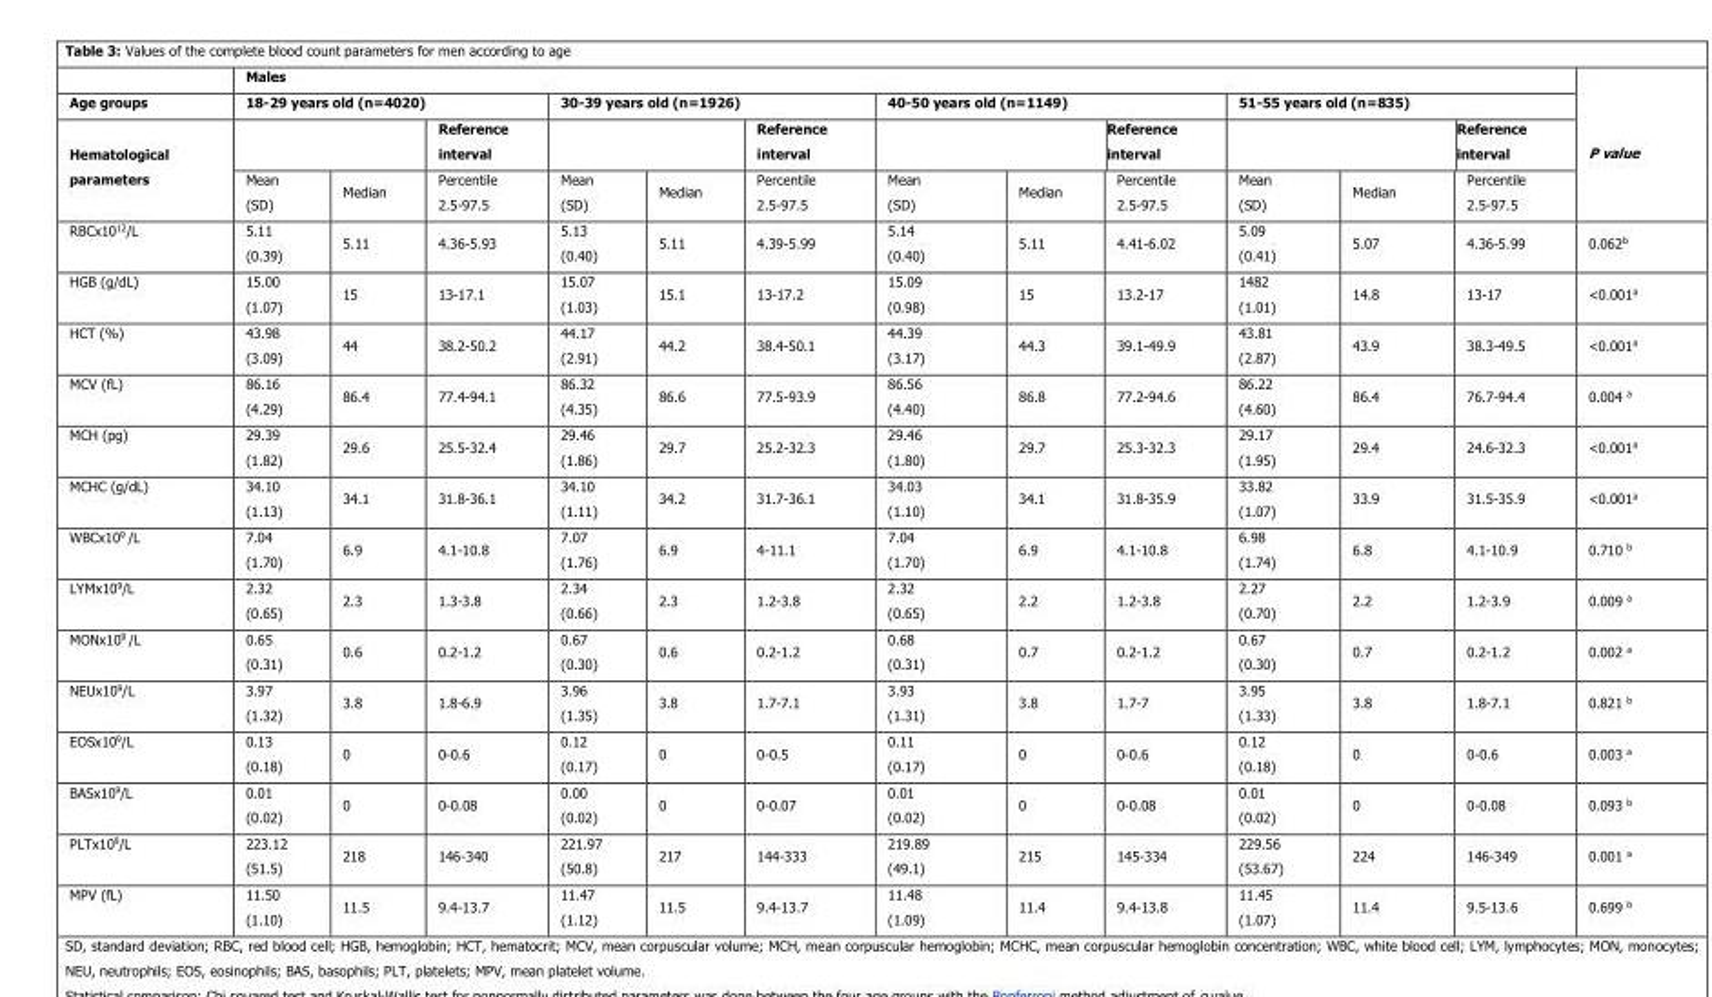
<table><thead><tr><td rowspan="4">Age groups Hematological parameters</td><td colspan="12">Males</td><td rowspan="4">P value</td></tr><tr><td colspan="3">18-29 years old (n=4020)</td><td colspan="3">30-39 years old (n=1926)</td><td colspan="3">40-50 years old (n=1149)</td><td colspan="3">51-55 years old (n=835)</td></tr><tr><td rowspan="2">Mean (SD)</td><td rowspan="2">Median</td><td rowspan="2">Reference interval Percentile 2.5-97.5</td><td rowspan="2">Mean (SD)</td><td rowspan="2">Median</td><td rowspan="2">Reference interval Percentile 2.5-97.5</td><td rowspan="2">Mean (SD)</td><td rowspan="2">Median</td><td rowspan="2">Reference interval Percentile 2.5-97.5</td><td rowspan="2">Mean (SD)</td><td rowspan="2">Median</td><td rowspan="2">Reference interval Percentile 2.5-97.5</td></tr><tr></tr></thead><tbody><tr><td>RBCx10<sup>12</sup>/L</td><td>5.11 (0.39)</td><td>5.11</td><td>4.36-5.93</td><td>5.13 (0.40)</td><td>5.11</td><td>4.39-5.99</td><td>5.14 (0.40)</td><td>5.11</td><td>4.41-6.02</td><td>5.09 (0.41)</td><td>5.07</td><td>4.36-5.99</td><td>0.062<sup>b</sup></td></tr><tr><td>HGB (g/dL)</td><td>15.00 (1.07)</td><td>15</td><td>13-17.1</td><td>15.07 (1.03)</td><td>15.1</td><td>13-17.2</td><td>15.09 (0.98)</td><td>15</td><td>13.2-17</td><td>1482 (1.01)</td><td>14.8</td><td>13-17</td><td>&lt;0.001<sup>a</sup></td></tr><tr><td>HCT (%)</td><td>43.98 (3.09)</td><td>44</td><td>38.2-50.2</td><td>44.17 (2.91)</td><td>44.2</td><td>38.4-50.1</td><td>44.39 (3.17)</td><td>44.3</td><td>39.1-49.9</td><td>43.81 (2.87)</td><td>43.9</td><td>38.3-49.5</td><td>&lt;0.001<sup>a</sup></td></tr><tr><td>MCV (fL)</td><td>86.16 (4.29)</td><td>86.4</td><td>77.4-94.1</td><td>86.32 (4.35)</td><td>86.6</td><td>77.5-93.9</td><td>86.56 (4.40)</td><td>86.8</td><td>77.2-94.6</td><td>86.22 (4.60)</td><td>86.4</td><td>76.7-94.4</td><td>0.004 <sup>a</sup></td></tr><tr><td>MCH (pg)</td><td>29.39 (1.82)</td><td>29.6</td><td>25.5-32.4</td><td>29.46 (1.86)</td><td>29.7</td><td>25.2-32.3</td><td>29.46 (1.80)</td><td>29.7</td><td>25.3-32.3</td><td>29.17 (1.95)</td><td>29.4</td><td>24.6-32.3</td><td>&lt;0.001<sup>a</sup></td></tr><tr><td>MCHC (g/dL)</td><td>34.10 (1.13)</td><td>34.1</td><td>31.8-36.1</td><td>34.10 (1.11)</td><td>34.2</td><td>31.7-36.1</td><td>34.03 (1.10)</td><td>34.1</td><td>31.8-35.9</td><td>33.82 (1.07)</td><td>33.9</td><td>31.5-35.9</td><td>&lt;0.001<sup>a</sup></td></tr><tr><td>WBCx10<sup>9</sup> /L</td><td>7.04 (1.70)</td><td>6.9</td><td>4.1-10.8</td><td>7.07 (1.76)</td><td>6.9</td><td>4-11.1</td><td>7.04 (1.70)</td><td>6.9</td><td>4.1-10.8</td><td>6.98 (1.74)</td><td>6.8</td><td>4.1-10.9</td><td>0.710 <sup>b</sup></td></tr><tr><td>LYMx10<sup>9</sup>/L</td><td>2.32 (0.65)</td><td>2.3</td><td>1.3-3.8</td><td>2.34 (0.66)</td><td>2.3</td><td>1.2-3.8</td><td>2.32 (0.65)</td><td>2.2</td><td>1.2-3.8</td><td>2.27 (0.70)</td><td>2.2</td><td>1.2-3.9</td><td>0.009 <sup>a</sup></td></tr><tr><td>MONx10<sup>9</sup> /L</td><td>0.65 (0.31)</td><td>0.6</td><td>0.2-1.2</td><td>0.67 (0.30)</td><td>0.6</td><td>0.2-1.2</td><td>0.68 (0.31)</td><td>0.7</td><td>0.2-1.2</td><td>0.67 (0.30)</td><td>0.7</td><td>0.2-1.2</td><td>0.002 <sup>a</sup></td></tr><tr><td>NEUx10<sup>9</sup>/L</td><td>3.97 (1.32)</td><td>3.8</td><td>1.8-6.9</td><td>3.96 (1.35)</td><td>3.8</td><td>1.7-7.1</td><td>3.93 (1.31)</td><td>3.8</td><td>1.7-7</td><td>3.95 (1.33)</td><td>3.8</td><td>1.8-7.1</td><td>0.821 <sup>b</sup></td></tr><tr><td>EOSx10<sup>9</sup>/L</td><td>0.13 (0.18)</td><td>0</td><td>0-0.6</td><td>0.12 (0.17)</td><td>0</td><td>0-0.5</td><td>0.11 (0.17)</td><td>0</td><td>0-0.6</td><td>0.12 (0.18)</td><td>0</td><td>0-0.6</td><td>0.003 <sup>a</sup></td></tr><tr><td>BASx10<sup>9</sup>/L</td><td>0.01 (0.02)</td><td>0</td><td>0-0.08</td><td>0.00 (0.02)</td><td>0</td><td>0-0.07</td><td>0.01 (0.02)</td><td>0</td><td>0-0.08</td><td>0.01 (0.02)</td><td>0</td><td>0-0.08</td><td>0.093 <sup>b</sup></td></tr><tr><td>PLTx10<sup>9</sup>/L</td><td>223.12 (51.5)</td><td>218</td><td>146-340</td><td>221.97 (50.8)</td><td>217</td><td>144-333</td><td>219.89 (49.1)</td><td>215</td><td>145-334</td><td>229.56 (53.67)</td><td>224</td><td>146-349</td><td>0.001 <sup>a</sup></td></tr><tr><td>MPV (fL)</td><td>11.50 (1.10)</td><td>11.5</td><td>9.4-13.7</td><td>11.47 (1.12)</td><td>11.5</td><td>9.4-13.7</td><td>11.48 (1.09)</td><td>11.4</td><td>9.4-13.8</td><td>11.45 (1.07)</td><td>11.4</td><td>9.5-13.6</td><td>0.699 <sup>b</sup></td></tr></tbody></table>